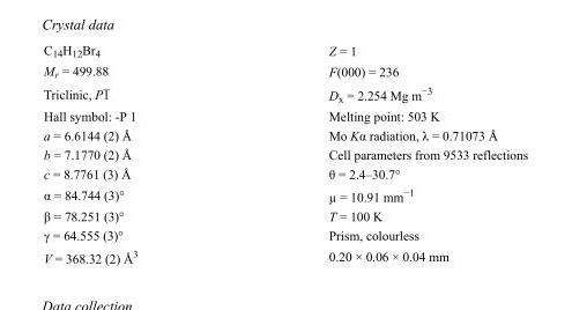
<table><tbody><tr><td>C<sub>14</sub>H<sub>12</sub>Br<sub>4</sub></td><td>Z = 1</td></tr><tr><td>M<sub>r</sub> = 499.88</td><td>F(000) = 236</td></tr><tr><td>Triclinic, P1</td><td>D<sub>x</sub> = 2.254 Mg m<sup>−3</sup></td></tr><tr><td>Hall symbol: -P 1</td><td>Melting point: 503 K</td></tr><tr><td>a = 6.6144 (2) Å</td><td>Mo Kα radiation, λ = 0.71073 Å</td></tr><tr><td>b = 7.1770 (2) Å</td><td>Cell parameters from 9533 reflections</td></tr><tr><td>c = 8.7761 (3) Å</td><td>θ = 2.4–30.7°</td></tr><tr><td>α = 84.744 (3)°</td><td>µ = 10.91 mm<sup>−1</sup></td></tr><tr><td>β = 78.251 (3)°</td><td>T = 100 K</td></tr><tr><td>γ = 64.555 (3)°</td><td>Prism, colourless</td></tr><tr><td>V = 368.32 (2) Å<sup>3</sup></td><td>0.20 × 0.06 × 0.04 mm</td></tr></tbody></table>